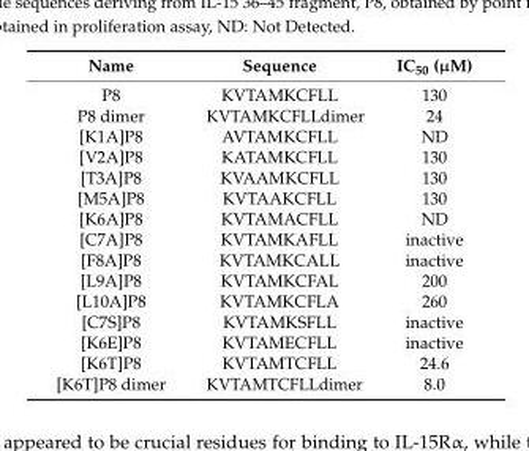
<table><thead><tr><td>Name</td><td>Sequence</td><td>IC<sub>50</sub> (µM)</td></tr></thead><tbody><tr><td>P8</td><td>KVTAMKCFLL</td><td>130</td></tr><tr><td>P8 dimer</td><td>KVTAMKCFLLdimer</td><td>24</td></tr><tr><td>[K1A]P8</td><td>AVTAMKCFLL</td><td>ND</td></tr><tr><td>[V2A]P8</td><td>KATAMKCFLL</td><td>130</td></tr><tr><td>[T3A]P8</td><td>KVAAMKCFLL</td><td>130</td></tr><tr><td>[M5A]P8</td><td>KVTAAKCFLL</td><td>130</td></tr><tr><td>[K6A]P8</td><td>KVTAMACFLL</td><td>ND</td></tr><tr><td>[C7A]P8</td><td>KVTAMKAFLL</td><td>inactive</td></tr><tr><td>[F8A]P8</td><td>KVTAMKCALL</td><td>inactive</td></tr><tr><td>[L9A]P8</td><td>KVTAMKCFAL</td><td>200</td></tr><tr><td>[L10A]P8</td><td>KVTAMKCFLA</td><td>260</td></tr><tr><td>[C7S]P8</td><td>KVTAMKSFLL</td><td>inactive</td></tr><tr><td>[K6E]P8</td><td>KVTAMECFLL</td><td>inactive</td></tr><tr><td>[K6T]P8</td><td>KVTAMTCFLL</td><td>24.6</td></tr><tr><td>[K6T]P8 dimer</td><td>KVTAMTCFLLdimer</td><td>8.0</td></tr></tbody></table>